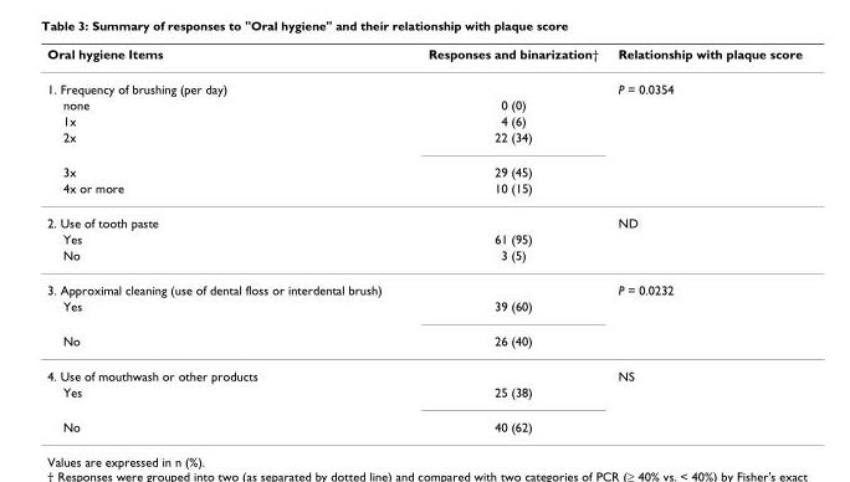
<table><thead><tr><td>Oral hygiene Items</td><td>Responses and binarization†</td><td>Relationship with plaque score</td></tr></thead><tbody><tr><td>1. Frequency of brushing (per day)</td><td></td><td>P = 0.0354</td></tr><tr><td>none</td><td>0 (0)</td><td></td></tr><tr><td>1x</td><td>4 (6)</td><td></td></tr><tr><td>2x</td><td>22 (34)</td><td></td></tr><tr><td>3x</td><td>29 (45)</td><td></td></tr><tr><td>4x or more</td><td>10 (15)</td><td></td></tr><tr><td>2. Use of tooth paste</td><td></td><td>ND</td></tr><tr><td>Yes</td><td>61 (95)</td><td></td></tr><tr><td>No</td><td>3 (5)</td><td></td></tr><tr><td>3. Approximal cleaning (use of dental floss or interdental brush)</td><td></td><td>P = 0.0232</td></tr><tr><td>Yes</td><td>39 (60)</td><td></td></tr><tr><td>No</td><td>26 (40)</td><td></td></tr><tr><td>4. Use of mouthwash or other products</td><td></td><td>NS</td></tr><tr><td>Yes</td><td>25 (38)</td><td></td></tr><tr><td>No</td><td>40 (62)</td><td></td></tr></tbody></table>